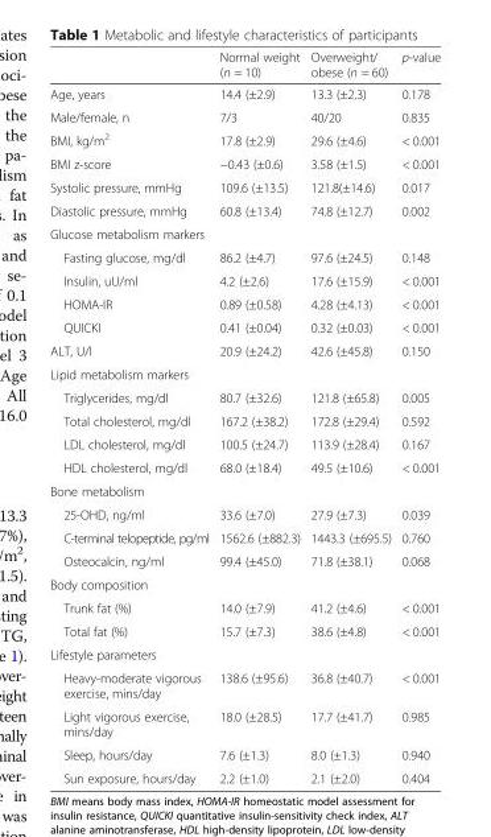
<table><thead><tr><td></td><td>Normal weight (n = 10)</td><td>Overweight/ obese (n = 60)</td><td>p-value</td></tr></thead><tbody><tr><td>Age, years</td><td>14.4 (±2.9)</td><td>13.3 (±2.3)</td><td>0.178</td></tr><tr><td>Male/female, n</td><td>7/3</td><td>40/20</td><td>0.835</td></tr><tr><td>BMI, kg/m<sup>2</sup></td><td>17.8 (±2.9)</td><td>29.6 (±4.6)</td><td>&lt; 0.001</td></tr><tr><td>BMI z-score</td><td>−0.43 (±0.6)</td><td>3.58 (±1.5)</td><td>&lt; 0.001</td></tr><tr><td>Systolic pressure, mmHg</td><td>109.6 (±13.5)</td><td>121.8(±14.6)</td><td>0.017</td></tr><tr><td>Diastolic pressure, mmHg</td><td>60.8 (±13.4)</td><td>74.8 (±12.7)</td><td>0.002</td></tr><tr><td colspan="4">Glucose metabolism markers</td></tr><tr><td>Fasting glucose, mg/dl</td><td>86.2 (±4.7)</td><td>97.6 (±24.5)</td><td>0.148</td></tr><tr><td>Insulin, uU/ml</td><td>4.2 (±2.6)</td><td>17.6 (±15.9)</td><td>&lt; 0.001</td></tr><tr><td>HOMA-IR</td><td>0.89 (±0.58)</td><td>4.28 (±4.13)</td><td>&lt; 0.001</td></tr><tr><td>QUICKI</td><td>0.41 (±0.04)</td><td>0.32 (±0.03)</td><td>&lt; 0.001</td></tr><tr><td>ALT, U/l</td><td>20.9 (±24.2)</td><td>42.6 (±45.8)</td><td>0.150</td></tr><tr><td colspan="4">Lipid metabolism markers</td></tr><tr><td>Triglycerides, mg/dl</td><td>80.7 (±32.6)</td><td>121.8 (±65.8)</td><td>0.005</td></tr><tr><td>Total cholesterol, mg/dl</td><td>167.2 (±38.2)</td><td>172.8 (±29.4)</td><td>0.592</td></tr><tr><td>LDL cholesterol, mg/dl</td><td>100.5 (±24.7)</td><td>113.9 (±28.4)</td><td>0.167</td></tr><tr><td>HDL cholesterol, mg/dl</td><td>68.0 (±18.4)</td><td>49.5 (±10.6)</td><td>&lt; 0.001</td></tr><tr><td colspan="4">Bone metabolism</td></tr><tr><td>25-OHD, ng/ml</td><td>33.6 (±7.0)</td><td>27.9 (±7.3)</td><td>0.039</td></tr><tr><td>C-terminal telopeptide, pg/ml</td><td>1562.6 (±882.3)</td><td>1443.3 (±695.5)</td><td>0.760</td></tr><tr><td>Osteocalcin, ng/ml</td><td>99.4 (±45.0)</td><td>71.8 (±38.1)</td><td>0.068</td></tr><tr><td colspan="4">Body composition</td></tr><tr><td>Trunk fat (%)</td><td>14.0 (±7.9)</td><td>41.2 (±4.6)</td><td>&lt; 0.001</td></tr><tr><td>Total fat (%)</td><td>15.7 (±7.3)</td><td>38.6 (±4.8)</td><td>&lt; 0.001</td></tr><tr><td colspan="4">Lifestyle parameters</td></tr><tr><td>Heavy-moderate vigorous exercise, mins/day</td><td>138.6 (±95.6)</td><td>36.8 (±40.7)</td><td>&lt; 0.001</td></tr><tr><td>Light vigorous exercise, mins/day</td><td>18.0 (±28.5)</td><td>17.7 (±41.7)</td><td>0.985</td></tr><tr><td>Sleep, hours/day</td><td>7.6 (±1.3)</td><td>8.0 (±1.3)</td><td>0.940</td></tr><tr><td>Sun exposure, hours/day</td><td>2.2 (±1.0)</td><td>2.1 (±2.0)</td><td>0.404</td></tr></tbody></table>